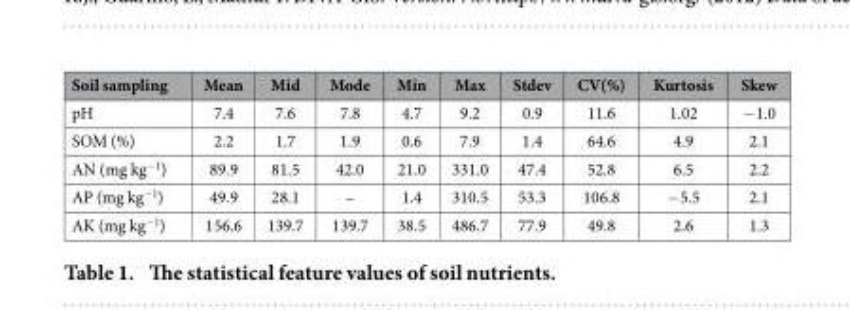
<table><thead><tr><td>Soil sampling</td><td>Mean</td><td>Mid</td><td>Mode</td><td>Min</td><td>Max</td><td>Stdev</td><td>CV(%)</td><td>Kurtosis</td><td>Skew</td></tr></thead><tbody><tr><td>pH</td><td>7.4</td><td>7.6</td><td>7.8</td><td>4.7</td><td>9.2</td><td>0.9</td><td>11.6</td><td>1.02</td><td>− 1.0</td></tr><tr><td>SOM (%)</td><td>2.2</td><td>1.7</td><td>1.9</td><td>0.6</td><td>7.9</td><td>1.4</td><td>64.6</td><td>4.9</td><td>2.1</td></tr><tr><td>AN (mg kg<sup>−1</sup>)</td><td>89.9</td><td>81.5</td><td>42.0</td><td>21.0</td><td>331.0</td><td>47.4</td><td>52.8</td><td>6.5</td><td>2.2</td></tr><tr><td>AP (mg kg<sup>−1</sup>)</td><td>49.9</td><td>28.1</td><td>–</td><td>1.4</td><td>310.5</td><td>53.3</td><td>106.8</td><td>− 5.5</td><td>2.1</td></tr><tr><td>AK (mg kg<sup>−1</sup>)</td><td>156.6</td><td>139.7</td><td>139.7</td><td>38.5</td><td>486.7</td><td>77.9</td><td>49.8</td><td>2.6</td><td>1.3</td></tr></tbody></table>